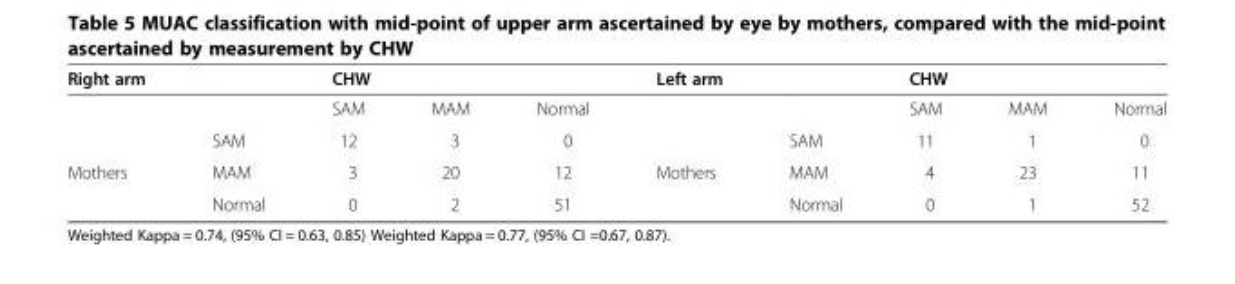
<table><thead><tr><td rowspan="2">Right arm</td><td rowspan="2"></td><td colspan="3">CHW</td><td rowspan="2">Left arm</td><td rowspan="2"></td><td colspan="3">CHW</td></tr><tr><td>SAM</td><td>MAM</td><td>Normal</td><td>SAM</td><td>MAM</td><td>Normal</td></tr></thead><tbody><tr><td></td><td>SAM</td><td>12</td><td>3</td><td>0</td><td></td><td>SAM</td><td>11</td><td>1</td><td>0</td></tr><tr><td rowspan="2">Mothers</td><td>MAM</td><td>3</td><td>20</td><td>12</td><td>Mothers</td><td>MAM</td><td>4</td><td>23</td><td>11</td></tr><tr><td>Normal</td><td>0</td><td>2</td><td>51</td><td></td><td>Normal</td><td>0</td><td>1</td><td>52</td></tr></tbody></table>